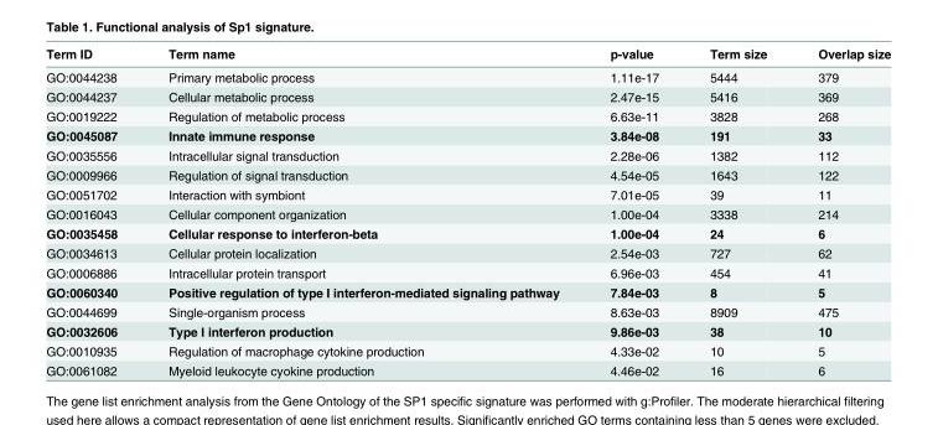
<table><thead><tr><td>Term ID</td><td>Term name</td><td>p-value</td><td>Term size</td><td>Overlap size</td></tr></thead><tbody><tr><td>GO:0044238</td><td>Primary metabolic process</td><td>1.11e-17</td><td>5444</td><td>379</td></tr><tr><td>GO:0044237</td><td>Cellular metabolic process</td><td>2.47e-15</td><td>5416</td><td>369</td></tr><tr><td>GO:0019222</td><td>Regulation of metabolic process</td><td>6.63e-11</td><td>3828</td><td>268</td></tr><tr><td>GO:0045087</td><td>Innate immune response</td><td>3.84e-08</td><td>191</td><td>33</td></tr><tr><td>GO:0035556</td><td>Intracellular signal transduction</td><td>2.28e-06</td><td>1382</td><td>112</td></tr><tr><td>GO:0009966</td><td>Regulation of signal transduction</td><td>4.54e-05</td><td>1643</td><td>122</td></tr><tr><td>GO:0051702</td><td>Interaction with symbiont</td><td>7.01e-05</td><td>39</td><td>11</td></tr><tr><td>GO:0016043</td><td>Cellular component organization</td><td>1.00e-04</td><td>3338</td><td>214</td></tr><tr><td>GO:0035458</td><td>Cellular response to interferon-beta</td><td>1.00e-04</td><td>24</td><td>6</td></tr><tr><td>GO:0034613</td><td>Cellular protein localization</td><td>2.54e-03</td><td>727</td><td>62</td></tr><tr><td>GO:0006886</td><td>Intracellular protein transport</td><td>6.96e-03</td><td>454</td><td>41</td></tr><tr><td>GO:0060340</td><td>Positive regulation of type I interferon-mediated signaling pathway</td><td>7.84e-03</td><td>8</td><td>5</td></tr><tr><td>GO:0044699</td><td>Single-organism process</td><td>8.63e-03</td><td>8909</td><td>475</td></tr><tr><td>GO:0032606</td><td>Type I interferon production</td><td>9.86e-03</td><td>38</td><td>10</td></tr><tr><td>GO:0010935</td><td>Regulation of macrophage cytokine production</td><td>4.33e-02</td><td>10</td><td>5</td></tr><tr><td>GO:0061082</td><td>Myeloid leukocyte cyokine production</td><td>4.46e-02</td><td>16</td><td>6</td></tr></tbody></table>